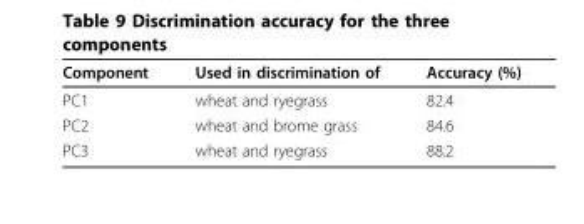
<table><thead><tr><td>Component</td><td>Used in discrimination of</td><td>Accuracy (%)</td></tr></thead><tbody><tr><td>PC1</td><td>wheat and ryegrass</td><td>82.4</td></tr><tr><td>PC2</td><td>wheat and brome grass</td><td>84.6</td></tr><tr><td>PC3</td><td>wheat and ryegrass</td><td>88.2</td></tr></tbody></table>